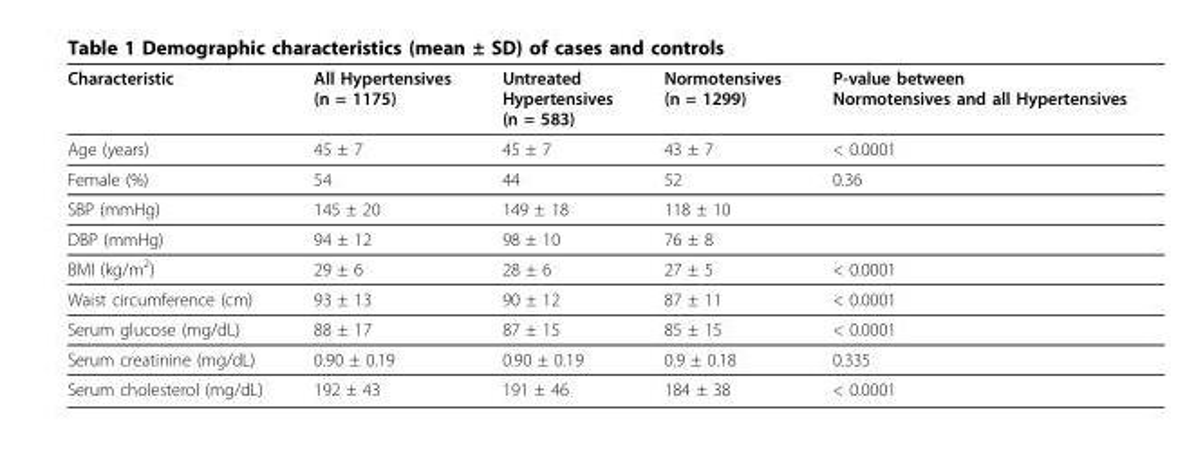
<table><thead><tr><td>Characteristic</td><td>All Hypertensives (n = 1175)</td><td>Untreated Hypertensives (n = 583)</td><td>Normotensives (n = 1299)</td><td>P-value between Normotensives and all Hypertensives</td></tr></thead><tbody><tr><td>Age (years)</td><td>45 ± 7</td><td>45 ± 7</td><td>43 ± 7</td><td>&lt; 0.0001</td></tr><tr><td>Female (%)</td><td>54</td><td>44</td><td>52</td><td>0.36</td></tr><tr><td>SBP (mmHg)</td><td>145 ± 20</td><td>149 ± 18</td><td>118 ± 10</td><td></td></tr><tr><td>DBP (mmHg)</td><td>94 ± 12</td><td>98 ± 10</td><td>76 ± 8</td><td></td></tr><tr><td>BMI (kg/m<sup>2</sup>)</td><td>29 ± 6</td><td>28 ± 6</td><td>27 ± 5</td><td>&lt; 0.0001</td></tr><tr><td>Waist circumference (cm)</td><td>93 ± 13</td><td>90 ± 12</td><td>87 ± 11</td><td>&lt; 0.0001</td></tr><tr><td>Serum glucose (mg/dL)</td><td>88 ± 17</td><td>87 ± 15</td><td>85 ± 15</td><td>&lt; 0.0001</td></tr><tr><td>Serum creatinine (mg/dL)</td><td>0.90 ± 0.19</td><td>0.90 ± 0.19</td><td>0.9 ± 0.18</td><td>0.335</td></tr><tr><td>Serum cholesterol (mg/dL)</td><td>192 ± 43</td><td>191 ± 46</td><td>184 ± 38</td><td>&lt; 0.0001</td></tr></tbody></table>